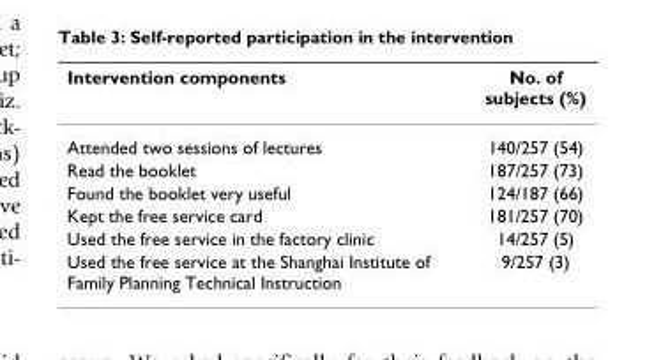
<table><thead><tr><td>Intervention components</td><td>No. of subjects (%)</td></tr></thead><tbody><tr><td>Attended two sessions of lectures</td><td>140/257 (54)</td></tr><tr><td>Read the booklet</td><td>187/257 (73)</td></tr><tr><td>Found the booklet very useful</td><td>124/187 (66)</td></tr><tr><td>Kept the free service card</td><td>181/257 (70)</td></tr><tr><td>Used the free service in the factory clinic</td><td>14/257 (5)</td></tr><tr><td>Used the free service at the Shanghai Institute of Family Planning Technical Instruction</td><td>9/257 (3)</td></tr></tbody></table>